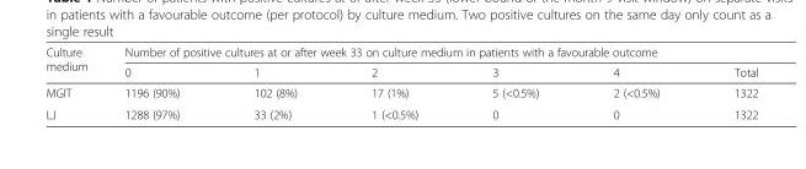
<table><thead><tr><td rowspan="2">Culture medium</td><td colspan="6">Number of positive cultures at or after week 33 on culture medium in patients with a favourable outcome</td></tr><tr><td>0</td><td>1</td><td>2</td><td>3</td><td>4</td><td>Total</td></tr></thead><tbody><tr><td>MGIT</td><td>1196 (90%)</td><td>102 (8%)</td><td>17 (1%)</td><td>5 (&lt;0.5%)</td><td>2 (&lt;0.5%)</td><td>1322</td></tr><tr><td>LJ</td><td>1288 (97%)</td><td>33 (2%)</td><td>1 (&lt;0.5%)</td><td>0</td><td>0</td><td>1322</td></tr></tbody></table>